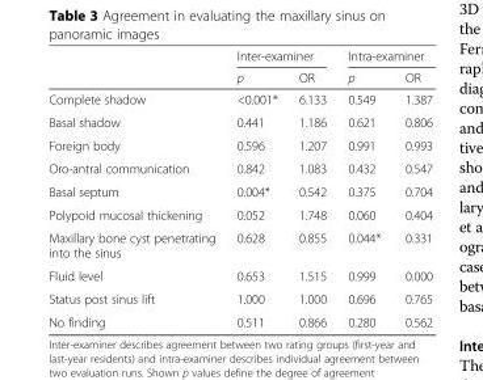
<table><thead><tr><td rowspan="2"></td><td colspan="2">Inter-examiner</td><td colspan="2">Intra-examiner</td></tr><tr><td>p</td><td>OR</td><td>p</td><td>OR</td></tr></thead><tbody><tr><td>Complete shadow</td><td>&lt;0.001*</td><td>6.133</td><td>0.549</td><td>1.387</td></tr><tr><td>Basal shadow</td><td>0.441</td><td>1.186</td><td>0.621</td><td>0.806</td></tr><tr><td>Foreign body</td><td>0.596</td><td>1.207</td><td>0.991</td><td>0.993</td></tr><tr><td>Oro-antral communication</td><td>0.842</td><td>1.083</td><td>0.432</td><td>0.547</td></tr><tr><td>Basal septum</td><td>0.004*</td><td>0.542</td><td>0.375</td><td>0.704</td></tr><tr><td>Polypoid mucosal thickening</td><td>0.052</td><td>1.748</td><td>0.060</td><td>0.404</td></tr><tr><td>Maxillary bone cyst penetrating into the sinus</td><td>0.628</td><td>0.855</td><td>0.044*</td><td>0.331</td></tr><tr><td>Fluid level</td><td>0.653</td><td>1.515</td><td>0.999</td><td>0.000</td></tr><tr><td>Status post sinus lift</td><td>1.000</td><td>1.000</td><td>0.696</td><td>0.765</td></tr><tr><td>No finding</td><td>0.511</td><td>0.866</td><td>0.280</td><td>0.562</td></tr></tbody></table>